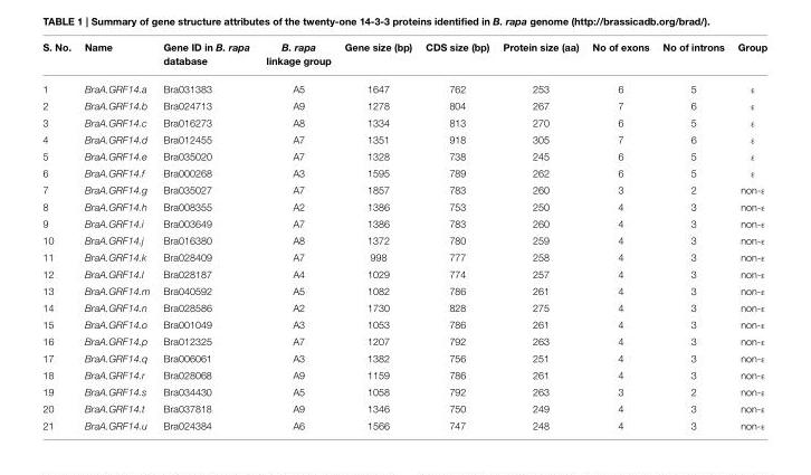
<table><thead><tr><td>S. No.</td><td>Name</td><td>Gene ID in B. rapa database</td><td>B. rapa linkage group</td><td>Gene size (bp)</td><td>CDS size (bp)</td><td>Protein size (aa)</td><td>No of exons</td><td>No of introns</td><td>Group</td></tr></thead><tbody><tr><td>1</td><td>BraA.GRF14.a</td><td>Bra031383</td><td>A5</td><td>1647</td><td>762</td><td>253</td><td>6</td><td>5</td><td>ε</td></tr><tr><td>2</td><td>BraA.GRF14.b</td><td>Bra024713</td><td>A9</td><td>1278</td><td>804</td><td>267</td><td>7</td><td>6</td><td>ε</td></tr><tr><td>3</td><td>BraA.GRF14.c</td><td>Bra016273</td><td>A8</td><td>1334</td><td>813</td><td>270</td><td>6</td><td>5</td><td>ε</td></tr><tr><td>4</td><td>BraA.GRF14.d</td><td>Bra012455</td><td>A7</td><td>1351</td><td>918</td><td>305</td><td>7</td><td>6</td><td>ε</td></tr><tr><td>5</td><td>BraA.GRF14.e</td><td>Bra035020</td><td>A7</td><td>1328</td><td>738</td><td>245</td><td>6</td><td>5</td><td>ε</td></tr><tr><td>6</td><td>BraA.GRF14.f</td><td>Bra000268</td><td>A3</td><td>1595</td><td>789</td><td>262</td><td>6</td><td>5</td><td>ε</td></tr><tr><td>7</td><td>BraA.GRF14.g</td><td>Bra035027</td><td>A7</td><td>1857</td><td>783</td><td>260</td><td>3</td><td>2</td><td>non-ε</td></tr><tr><td>8</td><td>BraA.GRF14.h</td><td>Bra008355</td><td>A2</td><td>1386</td><td>753</td><td>250</td><td>4</td><td>3</td><td>non-ε</td></tr><tr><td>9</td><td>BraA.GRF14.i</td><td>Bra003649</td><td>A7</td><td>1386</td><td>783</td><td>260</td><td>4</td><td>3</td><td>non-ε</td></tr><tr><td>10</td><td>BraA.GRF14.j</td><td>Bra016380</td><td>A8</td><td>1372</td><td>780</td><td>259</td><td>4</td><td>3</td><td>non-ε</td></tr><tr><td>11</td><td>BraA.GRF14.k</td><td>Bra028409</td><td>A7</td><td>998</td><td>777</td><td>258</td><td>4</td><td>3</td><td>non-ε</td></tr><tr><td>12</td><td>BraA.GRF14.l</td><td>Bra028187</td><td>A4</td><td>1029</td><td>774</td><td>257</td><td>4</td><td>3</td><td>non-ε</td></tr><tr><td>13</td><td>BraA.GRF14.m</td><td>Bra040592</td><td>A5</td><td>1082</td><td>786</td><td>261</td><td>4</td><td>3</td><td>non-ε</td></tr><tr><td>14</td><td>BraA.GRF14.n</td><td>Bra028586</td><td>A2</td><td>1730</td><td>828</td><td>275</td><td>4</td><td>3</td><td>non-ε</td></tr><tr><td>15</td><td>BraA.GRF14.o</td><td>Bra001049</td><td>A3</td><td>1053</td><td>786</td><td>261</td><td>4</td><td>3</td><td>non-ε</td></tr><tr><td>16</td><td>BraA.GRF14.p</td><td>Bra012325</td><td>A7</td><td>1207</td><td>792</td><td>263</td><td>4</td><td>3</td><td>non-ε</td></tr><tr><td>17</td><td>BraA.GRF14.q</td><td>Bra006061</td><td>A3</td><td>1382</td><td>756</td><td>251</td><td>4</td><td>3</td><td>non-ε</td></tr><tr><td>18</td><td>BraA.GRF14.r</td><td>Bra028068</td><td>A9</td><td>1159</td><td>786</td><td>261</td><td>4</td><td>3</td><td>non-ε</td></tr><tr><td>19</td><td>BraA.GRF14.s</td><td>Bra034430</td><td>A5</td><td>1058</td><td>792</td><td>263</td><td>3</td><td>2</td><td>non-ε</td></tr><tr><td>20</td><td>BraA.GRF14.t</td><td>Bra037818</td><td>A9</td><td>1346</td><td>750</td><td>249</td><td>4</td><td>3</td><td>non-ε</td></tr><tr><td>21</td><td>BraA.GRF14.u</td><td>Bra024384</td><td>A6</td><td>1566</td><td>747</td><td>248</td><td>4</td><td>3</td><td>non-ε</td></tr></tbody></table>